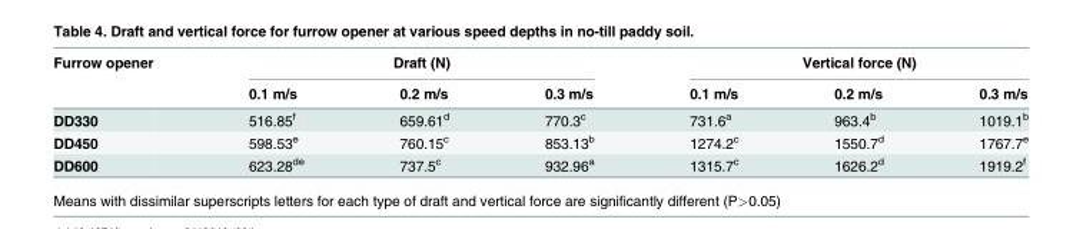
<table><thead><tr><td rowspan="2">Furrow opener</td><td colspan="3">Draft (N)</td><td colspan="3">Vertical force (N)</td></tr><tr><td>0.1 m/s</td><td>0.2 m/s</td><td>0.3 m/s</td><td>0.1 m/s</td><td>0.2 m/s</td><td>0.3 m/s</td></tr></thead><tbody><tr><td>DD330</td><td>516.85<sup>f</sup></td><td>659.61<sup>d</sup></td><td>770.3<sup>c</sup></td><td>731.6<sup>a</sup></td><td>963.4<sup>b</sup></td><td>1019.1<sup>b</sup></td></tr><tr><td>DD450</td><td>598.53<sup>e</sup></td><td>760.15<sup>c</sup></td><td>853.13<sup>b</sup></td><td>1274.2<sup>c</sup></td><td>1550.7<sup>d</sup></td><td>1767.7<sup>e</sup></td></tr><tr><td>DD600</td><td>623.28<sup>de</sup></td><td>737.5<sup>c</sup></td><td>932.96<sup>a</sup></td><td>1315.7<sup>c</sup></td><td>1626.2<sup>d</sup></td><td>1919.2<sup>f</sup></td></tr></tbody></table>